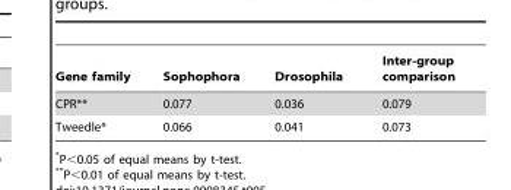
<table><thead><tr><td>Gene family</td><td>Sophophora</td><td>Drosophila</td><td>Inter-group comparison</td></tr></thead><tbody><tr><td>CPR**</td><td>0.077</td><td>0.036</td><td>0.079</td></tr><tr><td>Tweedle*</td><td>0.066</td><td>0.041</td><td>0.073</td></tr></tbody></table>